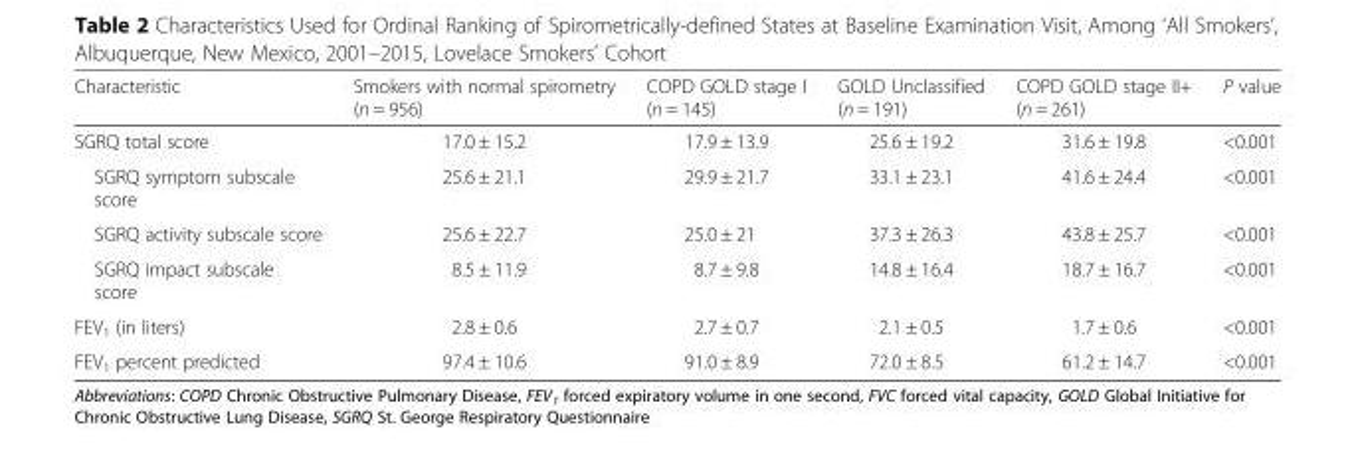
<table><thead><tr><td>Characteristic</td><td>Smokers with normal spirometry (n = 956)</td><td>COPD GOLD stage I (n = 145)</td><td>GOLD Unclassified (n = 191)</td><td>COPD GOLD stage II+ (n = 261)</td><td>P value</td></tr></thead><tbody><tr><td>SGRQ total score</td><td>17.0 ± 15.2</td><td>17.9 ± 13.9</td><td>25.6 ± 19.2</td><td>31.6 ± 19.8</td><td>&lt;0.001</td></tr><tr><td>SGRQ symptom subscale score</td><td>25.6 ± 21.1</td><td>29.9 ± 21.7</td><td>33.1 ± 23.1</td><td>41.6 ± 24.4</td><td>&lt;0.001</td></tr><tr><td>SGRQ activity subscale score</td><td>25.6 ± 22.7</td><td>25.0 ± 21</td><td>37.3 ± 26.3</td><td>43.8 ± 25.7</td><td>&lt;0.001</td></tr><tr><td>SGRQ impact subscale score</td><td>8.5 ± 11.9</td><td>8.7 ± 9.8</td><td>14.8 ± 16.4</td><td>18.7 ± 16.7</td><td>&lt;0.001</td></tr><tr><td>FEV<sub>1</sub> (in liters)</td><td>2.8 ± 0.6</td><td>2.7 ± 0.7</td><td>2.1 ± 0.5</td><td>1.7 ± 0.6</td><td>&lt;0.001</td></tr><tr><td>FEV<sub>1</sub> percent predicted</td><td>97.4 ± 10.6</td><td>91.0 ± 8.9</td><td>72.0 ± 8.5</td><td>61.2 ± 14.7</td><td>&lt;0.001</td></tr></tbody></table>